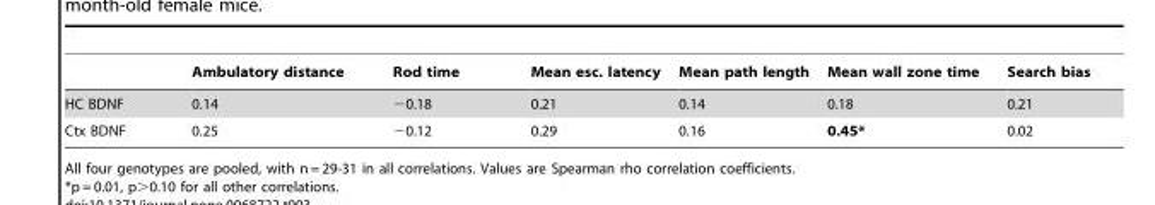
<table><thead><tr><td></td><td>Ambulatory distance</td><td>Rod time</td><td>Mean esc. latency</td><td>Mean path length</td><td>Mean wall zone time</td><td>Search bias</td></tr></thead><tbody><tr><td>HC BDNF</td><td>0.14</td><td>−0.18</td><td>0.21</td><td>0.14</td><td>0.18</td><td>0.21</td></tr><tr><td>Ctx BDNF</td><td>0.25</td><td>−0.12</td><td>0.29</td><td>0.16</td><td>0.45*</td><td>0.02</td></tr></tbody></table>